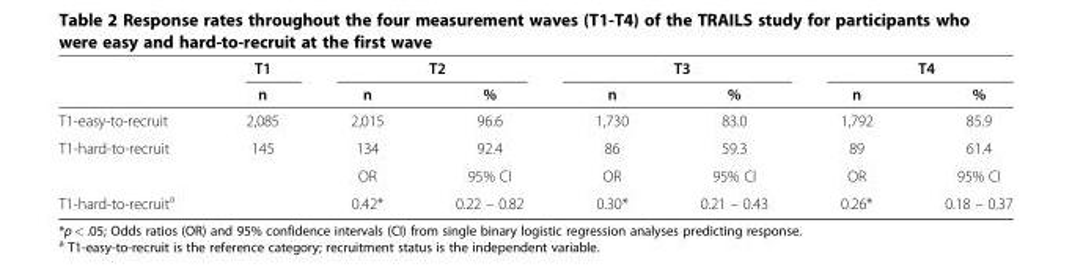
<table><thead><tr><td rowspan="2"></td><td rowspan="2">T1 n</td><td colspan="2">T2</td><td colspan="2">T3</td><td colspan="2">T4</td></tr><tr><td>n</td><td>%</td><td>n</td><td>%</td><td>n</td><td>%</td></tr></thead><tbody><tr><td>T1-easy-to-recruit</td><td>2,085</td><td>2,015</td><td>96.6</td><td>1,730</td><td>83.0</td><td>1,792</td><td>85.9</td></tr><tr><td rowspan="2">T1-hard-to-recruit</td><td>145</td><td>134</td><td>92.4</td><td>86</td><td>59.3</td><td>89</td><td>61.4</td></tr><tr><td></td><td>OR</td><td>95% CI</td><td>OR</td><td>95% CI</td><td>OR</td><td>95% CI</td></tr><tr><td>T1-hard-to-recruit<sup>a</sup></td><td></td><td>0.42*</td><td>0.22 – 0.82</td><td>0.30*</td><td>0.21 – 0.43</td><td>0.26*</td><td>0.18 – 0.37</td></tr></tbody></table>